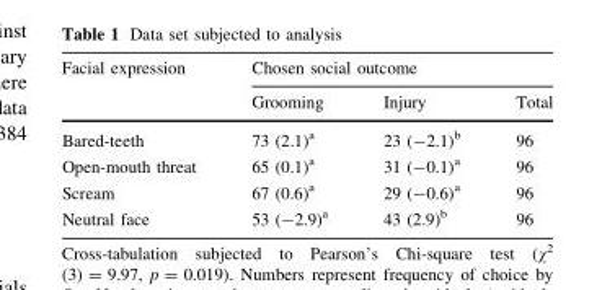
<table><thead><tr><td rowspan="2">Facial expression</td><td colspan="3">Chosen social outcome</td></tr><tr><td>Grooming</td><td>Injury</td><td>Total</td></tr></thead><tbody><tr><td>Bared-teeth</td><td>73 (2.1)<sup>a</sup></td><td>23 (-2.1)<sup>b</sup></td><td>96</td></tr><tr><td>Open-mouth threat</td><td>65 (0.1)<sup>a</sup></td><td>31 (-0.1)<sup>a</sup></td><td>96</td></tr><tr><td>Scream</td><td>67 (0.6)<sup>a</sup></td><td>29 (-0.6)<sup>a</sup></td><td>96</td></tr><tr><td>Neutral face</td><td>53 (-2.9)<sup>a</sup></td><td>43 (2.9)<sup>b</sup></td><td>96</td></tr></tbody></table>